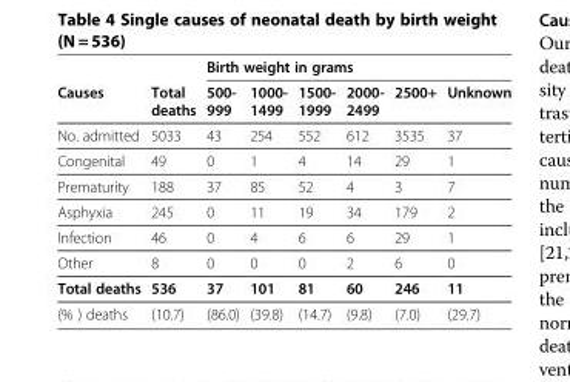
<table><thead><tr><td rowspan="2">Causes</td><td rowspan="2">Total deaths</td><td colspan="6">Birth weight in grams</td></tr><tr><td>500- 999</td><td>1000- 1499</td><td>1500- 1999</td><td>2000- 2499</td><td>2500+</td><td>Unknown</td></tr></thead><tbody><tr><td>No. admitted</td><td>5033</td><td>43</td><td>254</td><td>552</td><td>612</td><td>3535</td><td>37</td></tr><tr><td>Congenital</td><td>49</td><td>0</td><td>1</td><td>4</td><td>14</td><td>29</td><td>1</td></tr><tr><td>Prematurity</td><td>188</td><td>37</td><td>85</td><td>52</td><td>4</td><td>3</td><td>7</td></tr><tr><td>Asphyxia</td><td>245</td><td>0</td><td>11</td><td>19</td><td>34</td><td>179</td><td>2</td></tr><tr><td>Infection</td><td>46</td><td>0</td><td>4</td><td>6</td><td>6</td><td>29</td><td>1</td></tr><tr><td>Other</td><td>8</td><td>0</td><td>0</td><td>0</td><td>2</td><td>6</td><td>0</td></tr><tr><td>Total deaths</td><td>536</td><td>37</td><td>101</td><td>81</td><td>60</td><td>246</td><td>11</td></tr><tr><td>(% ) deaths</td><td>(10.7)</td><td>(86.0)</td><td>(39.8)</td><td>(14.7)</td><td>(9.8)</td><td>(7.0)</td><td>(29.7)</td></tr></tbody></table>